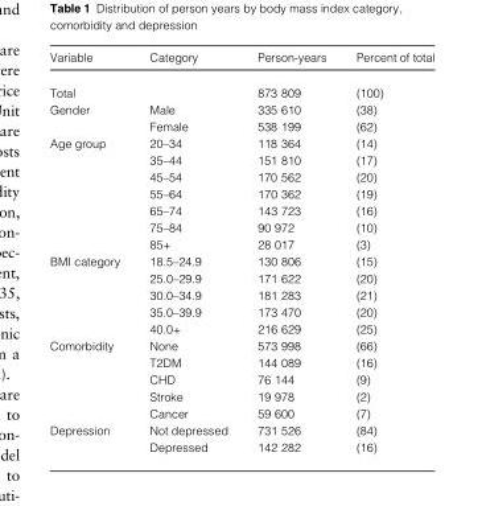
<table><thead><tr><td>Variable</td><td>Category</td><td>Person-years</td><td>Percent of total</td></tr></thead><tbody><tr><td>Total</td><td></td><td>873 809</td><td>(100)</td></tr><tr><td rowspan="2">Gender</td><td>Male</td><td>335 610</td><td>(38)</td></tr><tr><td>Female</td><td>538 199</td><td>(62)</td></tr><tr><td rowspan="7">Age group</td><td>20–34</td><td>118 364</td><td>(14)</td></tr><tr><td>35–44</td><td>151 810</td><td>(17)</td></tr><tr><td>45–54</td><td>170 562</td><td>(20)</td></tr><tr><td>55–64</td><td>170 362</td><td>(19)</td></tr><tr><td>65–74</td><td>143 723</td><td>(16)</td></tr><tr><td>75–84</td><td>90 972</td><td>(10)</td></tr><tr><td>85+</td><td>28 017</td><td>(3)</td></tr><tr><td rowspan="5">BMI category</td><td>18.5–24.9</td><td>130 806</td><td>(15)</td></tr><tr><td>25.0–29.9</td><td>171 622</td><td>(20)</td></tr><tr><td>30.0–34.9</td><td>181 283</td><td>(21)</td></tr><tr><td>35.0–39.9</td><td>173 470</td><td>(20)</td></tr><tr><td>40.0+</td><td>216 629</td><td>(25)</td></tr><tr><td rowspan="5">Comorbidity</td><td>None</td><td>573 998</td><td>(66)</td></tr><tr><td>T2DM</td><td>144 089</td><td>(16)</td></tr><tr><td>CHD</td><td>76 144</td><td>(9)</td></tr><tr><td>Stroke</td><td>19 978</td><td>(2)</td></tr><tr><td>Cancer</td><td>59 600</td><td>(7)</td></tr><tr><td rowspan="2">Depression</td><td>Not depressed</td><td>731 526</td><td>(84)</td></tr><tr><td>Depressed</td><td>142 282</td><td>(16)</td></tr></tbody></table>